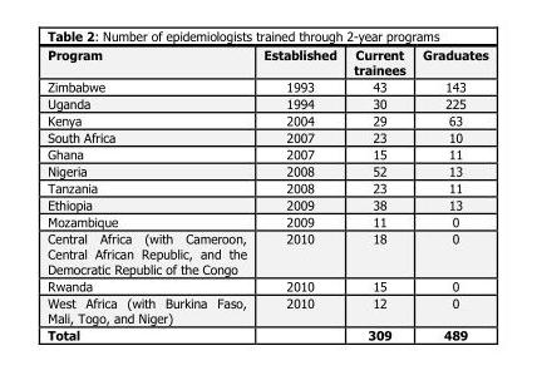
<table><thead><tr><td>Program</td><td>Established</td><td>Current trainees</td><td>Graduates</td></tr></thead><tbody><tr><td>Zimbabwe</td><td>1993</td><td>43</td><td>143</td></tr><tr><td>Uganda</td><td>1994</td><td>30</td><td>225</td></tr><tr><td>Kenya</td><td>2004</td><td>29</td><td>63</td></tr><tr><td>South Africa</td><td>2007</td><td>23</td><td>10</td></tr><tr><td>Ghana</td><td>2007</td><td>15</td><td>11</td></tr><tr><td>Nigeria</td><td>2008</td><td>52</td><td>13</td></tr><tr><td>Tanzania</td><td>2008</td><td>23</td><td>11</td></tr><tr><td>Ethiopia</td><td>2009</td><td>38</td><td>13</td></tr><tr><td>Mozambique</td><td>2009</td><td>11</td><td>0</td></tr><tr><td>Central Africa (with Cameroon, Central African Republic, and the Democratic Republic of the Congo</td><td>2010</td><td>18</td><td>0</td></tr><tr><td>Rwanda</td><td>2010</td><td>15</td><td>0</td></tr><tr><td>West Africa (with Burkina Faso, Mali, Togo, and Niger)</td><td>2010</td><td>12</td><td>0</td></tr><tr><td>Total</td><td></td><td>309</td><td>489</td></tr></tbody></table>